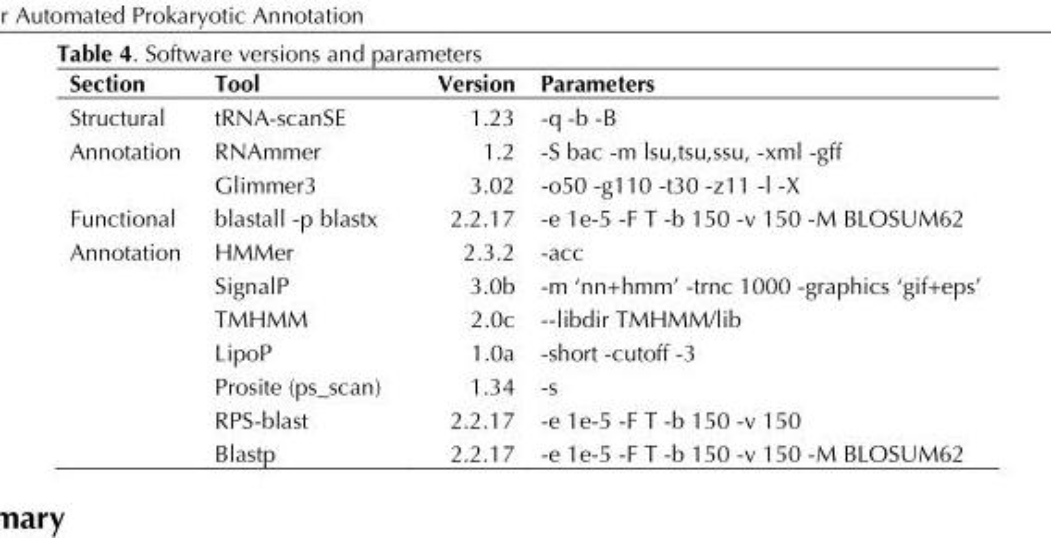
<table><thead><tr><td>Section</td><td>Tool</td><td>Version</td><td>Parameters</td></tr></thead><tbody><tr><td>Structural</td><td>tRNA-scanSE</td><td>1.23</td><td>-q -b -B</td></tr><tr><td rowspan="2">Annotation</td><td>RNAmmer</td><td>1.2</td><td>-S bac -m lsu,tsu,ssu, -xml -gff</td></tr><tr><td>Glimmer3</td><td>3.02</td><td>-o50 -g110 -t30 -z11 -l -X</td></tr><tr><td>Functional</td><td>blastall -p blastx</td><td>2.2.17</td><td>-e 1e-5 -F T -b 150 -v 150 -M BLOSUM62</td></tr><tr><td rowspan="7">Annotation</td><td>HMMer</td><td>2.3.2</td><td>-acc</td></tr><tr><td>SignalP</td><td>3.0b</td><td>-m ‘nn+hmm’ -trnc 1000 -graphics ‘gif+eps’</td></tr><tr><td>TMHMM</td><td>2.0c</td><td>--libdir TMHMM/lib</td></tr><tr><td>LipoP</td><td>1.0a</td><td>-short -cutoff -3</td></tr><tr><td>Prosite (ps_scan)</td><td>1.34</td><td>-s</td></tr><tr><td>RPS-blast</td><td>2.2.17</td><td>-e 1e-5 -F T -b 150 -v 150</td></tr><tr><td>Blastp</td><td>2.2.17</td><td>-e 1e-5 -F T -b 150 -v 150 -M BLOSUM62</td></tr></tbody></table>